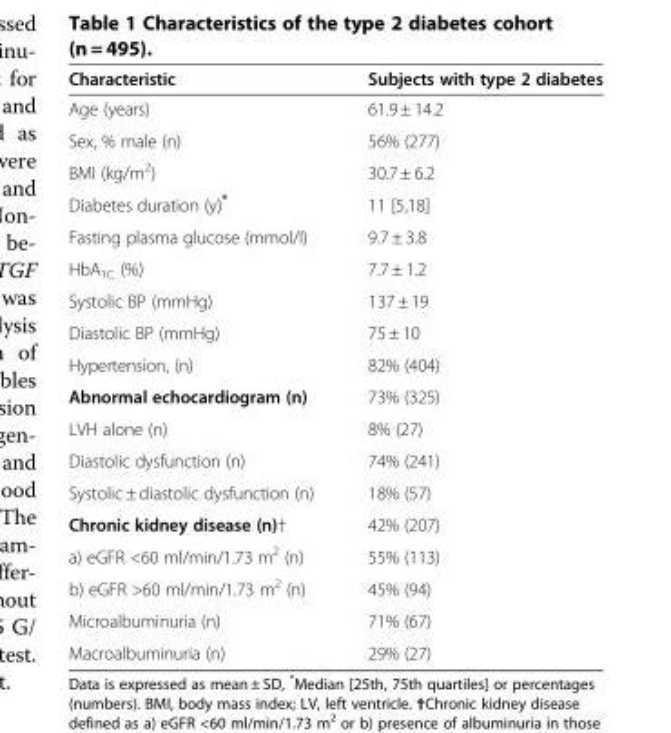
<table><thead><tr><td>Characteristic</td><td>Subjects with type 2 diabetes</td></tr></thead><tbody><tr><td>Age (years)</td><td>61.9 ± 14.2</td></tr><tr><td>Sex, % male (n)</td><td>56% (277)</td></tr><tr><td>BMI (kg/m<sup>2</sup>)</td><td>30.7 ± 6.2</td></tr><tr><td>Diabetes duration (y)*</td><td>11 [5,18]</td></tr><tr><td>Fasting plasma glucose (mmol/l)</td><td>9.7 ± 3.8</td></tr><tr><td>HbA<sub>1C</sub> (%)</td><td>7.7 ± 1.2</td></tr><tr><td>Systolic BP (mmHg)</td><td>137 ± 19</td></tr><tr><td>Diastolic BP (mmHg)</td><td>75 ± 10</td></tr><tr><td>Hypertension, (n)</td><td>82% (404)</td></tr><tr><td>Abnormal echocardiogram (n)</td><td>73% (325)</td></tr><tr><td>LVH alone (n)</td><td>8% (27)</td></tr><tr><td>Diastolic dysfunction (n)</td><td>74% (241)</td></tr><tr><td>Systolic ± diastolic dysfunction (n)</td><td>18% (57)</td></tr><tr><td>Chronic kidney disease (n)†</td><td>42% (207)</td></tr><tr><td>a) eGFR &lt;60 ml/min/1.73 m<sup>2</sup> (n)</td><td>55% (113)</td></tr><tr><td>b) eGFR &gt;60 ml/min/1.73 m<sup>2</sup> (n)</td><td>45% (94)</td></tr><tr><td>Microalbuminuria (n)</td><td>71% (67)</td></tr><tr><td>Macroalbuminuria (n)</td><td>29% (27)</td></tr></tbody></table>